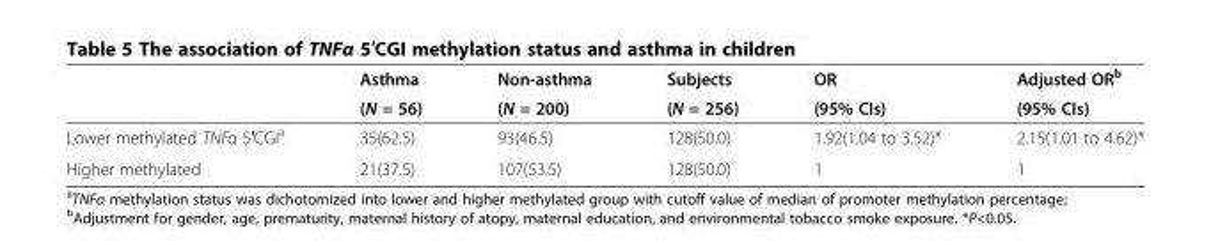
<table><thead><tr><td rowspan="2"></td><td rowspan="2">Asthma (N = 56)</td><td rowspan="2">Non-asthma (N = 200)</td><td rowspan="2">Subjects (N = 256)</td><td rowspan="2">OR (95% CIs)</td><td rowspan="2">Adjusted OR<sup>b</sup> (95% CIs)</td></tr><tr></tr></thead><tbody><tr><td>Lower methylated TNFα 5′CGI<sup>a</sup></td><td>35(62.5)</td><td>93(46.5)</td><td>128(50.0)</td><td>1.92(1.04 to 3.52)*</td><td>2.15(1.01 to 4.62)*</td></tr><tr><td>Higher methylated</td><td>21(37.5)</td><td>107(53.5)</td><td>128(50.0)</td><td>1</td><td>1</td></tr></tbody></table>